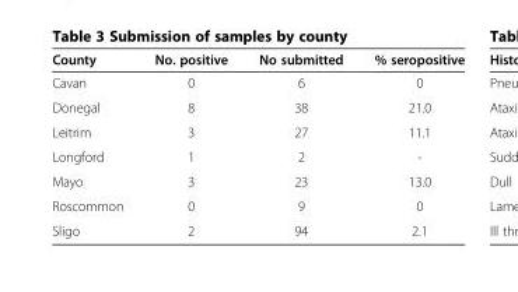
<table><thead><tr><td>County</td><td>No. positive</td><td>No submitted</td><td>% seropositive</td></tr></thead><tbody><tr><td>Cavan</td><td>0</td><td>6</td><td>0</td></tr><tr><td>Donegal</td><td>8</td><td>38</td><td>21.0</td></tr><tr><td>Leitrim</td><td>3</td><td>27</td><td>11.1</td></tr><tr><td>Longford</td><td>1</td><td>2</td><td>-</td></tr><tr><td>Mayo</td><td>3</td><td>23</td><td>13.0</td></tr><tr><td>Roscommon</td><td>0</td><td>9</td><td>0</td></tr><tr><td>Sligo</td><td>2</td><td>94</td><td>2.1</td></tr></tbody></table>